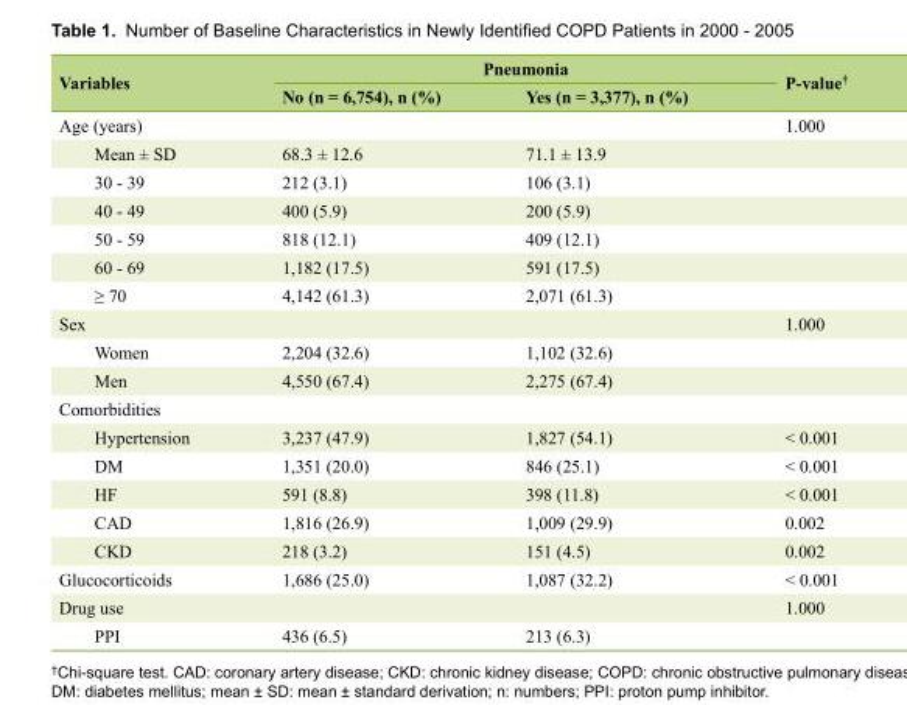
<table><thead><tr><td rowspan="2">Variables</td><td colspan="2">Pneumonia</td><td rowspan="2">P-value<sup>†</sup></td></tr><tr><td>No (n = 6,754), n (%)</td><td>Yes (n = 3,377), n (%)</td></tr></thead><tbody><tr><td>Age (years)</td><td></td><td></td><td>1.000</td></tr><tr><td>Mean ± SD</td><td>68.3 ± 12.6</td><td>71.1 ± 13.9</td><td></td></tr><tr><td>30 - 39</td><td>212 (3.1)</td><td>106 (3.1)</td><td></td></tr><tr><td>40 - 49</td><td>400 (5.9)</td><td>200 (5.9)</td><td></td></tr><tr><td>50 - 59</td><td>818 (12.1)</td><td>409 (12.1)</td><td></td></tr><tr><td>60 - 69</td><td>1,182 (17.5)</td><td>591 (17.5)</td><td></td></tr><tr><td>≥ 70</td><td>4,142 (61.3)</td><td>2,071 (61.3)</td><td></td></tr><tr><td>Sex</td><td></td><td></td><td>1.000</td></tr><tr><td>Women</td><td>2,204 (32.6)</td><td>1,102 (32.6)</td><td></td></tr><tr><td>Men</td><td>4,550 (67.4)</td><td>2,275 (67.4)</td><td></td></tr><tr><td colspan="4">Comorbidities</td></tr><tr><td>Hypertension</td><td>3,237 (47.9)</td><td>1,827 (54.1)</td><td>&lt; 0.001</td></tr><tr><td>DM</td><td>1,351 (20.0)</td><td>846 (25.1)</td><td>&lt; 0.001</td></tr><tr><td>HF</td><td>591 (8.8)</td><td>398 (11.8)</td><td>&lt; 0.001</td></tr><tr><td>CAD</td><td>1,816 (26.9)</td><td>1,009 (29.9)</td><td>0.002</td></tr><tr><td>CKD</td><td>218 (3.2)</td><td>151 (4.5)</td><td>0.002</td></tr><tr><td>Glucocorticoids</td><td>1,686 (25.0)</td><td>1,087 (32.2)</td><td>&lt; 0.001</td></tr><tr><td>Drug use</td><td></td><td></td><td>1.000</td></tr><tr><td>PPI</td><td>436 (6.5)</td><td>213 (6.3)</td><td></td></tr></tbody></table>